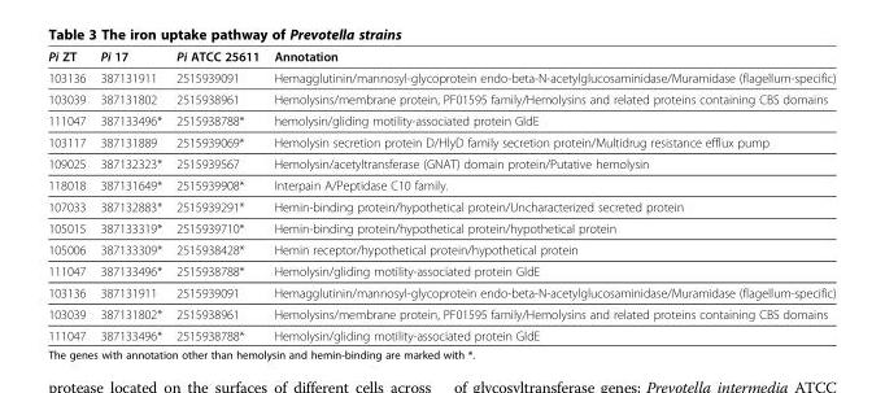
<table><thead><tr><td>Pi ZT</td><td>Pi 17</td><td>Pi ATCC 25611</td><td>Annotation</td></tr></thead><tbody><tr><td>103136</td><td>387131911</td><td>2515939091</td><td>Hemagglutinin/mannosyl-glycoprotein endo-beta-N-acetylglucosaminidase/Muramidase (flagellum-specific)</td></tr><tr><td>103039</td><td>387131802</td><td>2515938961</td><td>Hemolysins/membrane protein, PF01595 family/Hemolysins and related proteins containing CBS domains</td></tr><tr><td>111047</td><td>387133496*</td><td>2515938788*</td><td>hemolysin/gliding motility-associated protein GldE</td></tr><tr><td>103117</td><td>387131889</td><td>2515939069*</td><td>Hemolysin secretion protein D/HlyD family secretion protein/Multidrug resistance efflux pump</td></tr><tr><td>109025</td><td>387132323*</td><td>2515939567</td><td>Hemolysin/acetyltransferase (GNAT) domain protein/Putative hemolysin</td></tr><tr><td>118018</td><td>387131649*</td><td>2515939908*</td><td>Interpain A/Peptidase C10 family.</td></tr><tr><td>107033</td><td>387132883*</td><td>2515939291*</td><td>Hemin-binding protein/hypothetical protein/Uncharacterized secreted protein</td></tr><tr><td>105015</td><td>387133319*</td><td>2515939710*</td><td>Hemin-binding protein/hypothetical protein/hypothetical protein</td></tr><tr><td>105006</td><td>387133309*</td><td>2515938428*</td><td>Hemin receptor/hypothetical protein/hypothetical protein</td></tr><tr><td>111047</td><td>387133496*</td><td>2515938788*</td><td>Hemolysin/gliding motility-associated protein GldE</td></tr><tr><td>103136</td><td>387131911</td><td>2515939091</td><td>Hemagglutinin/mannosyl-glycoprotein endo-beta-N-acetylglucosaminidase/Muramidase (flagellum-specific)</td></tr><tr><td>103039</td><td>387131802*</td><td>2515938961</td><td>Hemolysins/membrane protein, PF01595 family/Hemolysins and related proteins containing CBS domains</td></tr><tr><td>111047</td><td>387133496*</td><td>2515938788*</td><td>Hemolysin/gliding motility-associated protein GldE</td></tr></tbody></table>